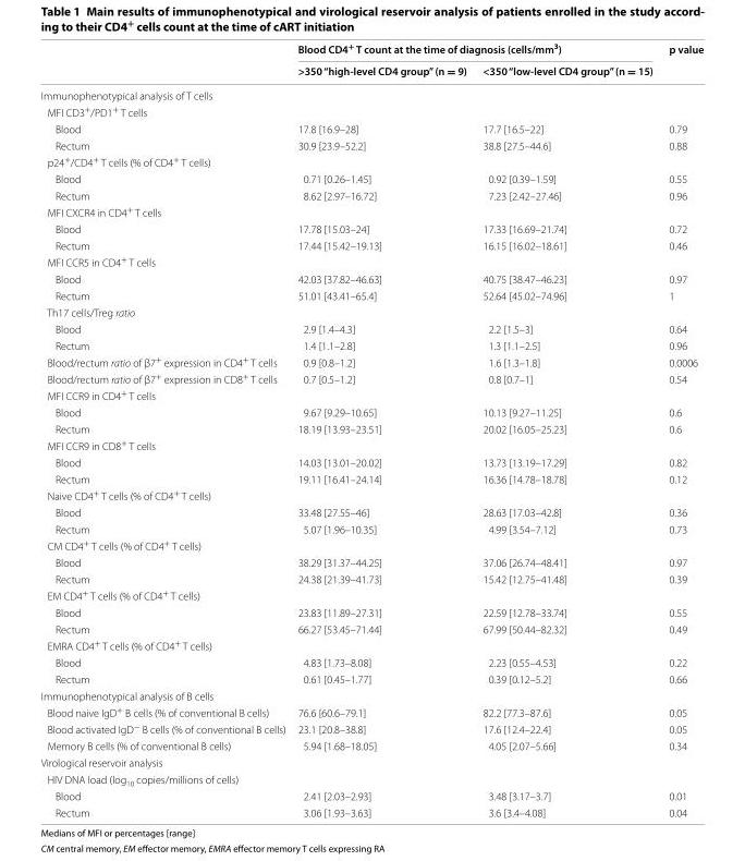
<table><thead><tr><td rowspan="2"></td><td colspan="2">Blood CD4<sup>+</sup> T count at the time of diagnosis (cells/mm<sup>3</sup>)</td><td rowspan="2">p value</td></tr><tr><td>&gt;350 “high-level CD4 group” (n = 9)</td><td>&lt;350 “low-level CD4 group” (n = 15)</td></tr></thead><tbody><tr><td colspan="4">Immunophenotypical analysis of T cells</td></tr><tr><td colspan="4">MFI CD3<sup>+</sup>/PD1<sup>+</sup> T cells</td></tr><tr><td>Blood</td><td>17.8 [16.9–28]</td><td>17.7 [16.5–22]</td><td>0.79</td></tr><tr><td>Rectum</td><td>30.9 [23.9–52.2]</td><td>38.8 [27.5–44.6]</td><td>0.88</td></tr><tr><td colspan="4">p24<sup>+</sup>/CD4<sup>+</sup> T cells (% of CD4<sup>+</sup> T cells)</td></tr><tr><td>Blood</td><td>0.71 [0.26–1.45]</td><td>0.92 [0.39–1.59]</td><td>0.55</td></tr><tr><td>Rectum</td><td>8.62 [2.97–16.72]</td><td>7.23 [2.42–27.46]</td><td>0.96</td></tr><tr><td colspan="4">MFI CXCR4 in CD4<sup>+</sup> T cells</td></tr><tr><td>Blood</td><td>17.78 [15.03–24]</td><td>17.33 [16.69–21.74]</td><td>0.72</td></tr><tr><td>Rectum</td><td>17.44 [15.42–19.13]</td><td>16.15 [16.02–18.61]</td><td>0.46</td></tr><tr><td colspan="4">MFI CCR5 in CD4<sup>+</sup> T cells</td></tr><tr><td>Blood</td><td>42.03 [37.82–46.63]</td><td>40.75 [38.47–46.23]</td><td>0.97</td></tr><tr><td>Rectum</td><td>51.01 [43.41–65.4]</td><td>52.64 [45.02–74.96]</td><td>1</td></tr><tr><td colspan="4">Th17 cells/Treg ratio</td></tr><tr><td>Blood</td><td>2.9 [1.4–4.3]</td><td>2.2 [1.5–3]</td><td>0.64</td></tr><tr><td>Rectum</td><td>1.4 [1.1–2.8]</td><td>1.3 [1.1–2.5]</td><td>0.96</td></tr><tr><td>Blood/rectum ratio of β7<sup>+</sup> expression in CD4<sup>+</sup> T cells</td><td>0.9 [0.8–1.2]</td><td>1.6 [1.3–1.8]</td><td>0.0006</td></tr><tr><td>Blood/rectum ratio of β7<sup>+</sup> expression in CD8<sup>+</sup> T cells</td><td>0.7 [0.5–1.2]</td><td>0.8 [0.7–1]</td><td>0.54</td></tr><tr><td colspan="4">MFI CCR9 in CD4<sup>+</sup> T cells</td></tr><tr><td>Blood</td><td>9.67 [9.29–10.65]</td><td>10.13 [9.27–11.25]</td><td>0.6</td></tr><tr><td>Rectum</td><td>18.19 [13.93–23.51]</td><td>20.02 [16.05–25.23]</td><td>0.6</td></tr><tr><td colspan="4">MFI CCR9 in CD8<sup>+</sup> T cells</td></tr><tr><td>Blood</td><td>14.03 [13.01–20.02]</td><td>13.73 [13.19–17.29]</td><td>0.82</td></tr><tr><td>Rectum</td><td>19.11 [16.41–24.14]</td><td>16.36 [14.78–18.78]</td><td>0.12</td></tr><tr><td colspan="4">Naive CD4<sup>+</sup> T cells (% of CD4<sup>+</sup> T cells)</td></tr><tr><td>Blood</td><td>33.48 [27.55–46]</td><td>28.63 [17.03–42.8]</td><td>0.36</td></tr><tr><td>Rectum</td><td>5.07 [1.96–10.35]</td><td>4.99 [3.54–7.12]</td><td>0.73</td></tr><tr><td colspan="4">CM CD4<sup>+</sup> T cells (% of CD4<sup>+</sup> T cells)</td></tr><tr><td>Blood</td><td>38.29 [31.37–44.25]</td><td>37.06 [26.74–48.41]</td><td>0.97</td></tr><tr><td>Rectum</td><td>24.38 [21.39–41.73]</td><td>15.42 [12.75–41.48]</td><td>0.39</td></tr><tr><td colspan="4">EM CD4<sup>+</sup> T cells (% of CD4<sup>+</sup> T cells)</td></tr><tr><td>Blood</td><td>23.83 [11.89–27.31]</td><td>22.59 [12.78–33.74]</td><td>0.55</td></tr><tr><td>Rectum</td><td>66.27 [53.45–71.44]</td><td>67.99 [50.44–82.32]</td><td>0.49</td></tr><tr><td colspan="4">EMRA CD4<sup>+</sup> T cells (% of CD4<sup>+</sup> T cells)</td></tr><tr><td>Blood</td><td>4.83 [1.73–8.08]</td><td>2.23 [0.55–4.53]</td><td>0.22</td></tr><tr><td>Rectum</td><td>0.61 [0.45–1.77]</td><td>0.39 [0.12–5.2]</td><td>0.66</td></tr><tr><td colspan="4">Immunophenotypical analysis of B cells</td></tr><tr><td>Blood naive IgD<sup>+</sup> B cells (% of conventional B cells)</td><td>76.6 [60.6–79.1]</td><td>82.2 [77.3–87.6]</td><td>0.05</td></tr><tr><td>Blood activated IgD<sup>−</sup> B cells (% of conventional B cells)</td><td>23.1 [20.8–38.8]</td><td>17.6 [12.4–22.4]</td><td>0.05</td></tr><tr><td>Memory B cells (% of conventional B cells)</td><td>5.94 [1.68–18.05]</td><td>4.05 [2.07–5.66]</td><td>0.34</td></tr><tr><td colspan="4">Virological reservoir analysis</td></tr><tr><td colspan="4">HIV DNA load (log<sub>10</sub> copies/millions of cells)</td></tr><tr><td>Blood</td><td>2.41 [2.03–2.93]</td><td>3.48 [3.17–3.7]</td><td>0.01</td></tr><tr><td>Rectum</td><td>3.06 [1.93–3.63]</td><td>3.6 [3.4–4.08]</td><td>0.04</td></tr></tbody></table>